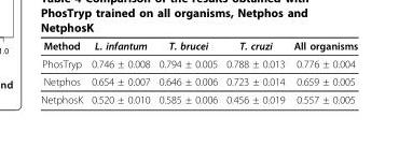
<table><thead><tr><td>Method</td><td>L. infantum</td><td>T. brucei</td><td>T. cruzi</td><td>All organisms</td></tr></thead><tbody><tr><td>PhosTryp</td><td>0.746 ± 0.008</td><td>0.794 ± 0.005</td><td>0.788 ± 0.013</td><td>0.776 ± 0.004</td></tr><tr><td>Netphos</td><td>0.654 ± 0.007</td><td>0.646 ± 0.006</td><td>0.723 ± 0.014</td><td>0.659 ± 0.005</td></tr><tr><td>NetphosK</td><td>0.520 ± 0.010</td><td>0.585 ± 0.006</td><td>0.456 ± 0.019</td><td>0.557 ± 0.005</td></tr></tbody></table>